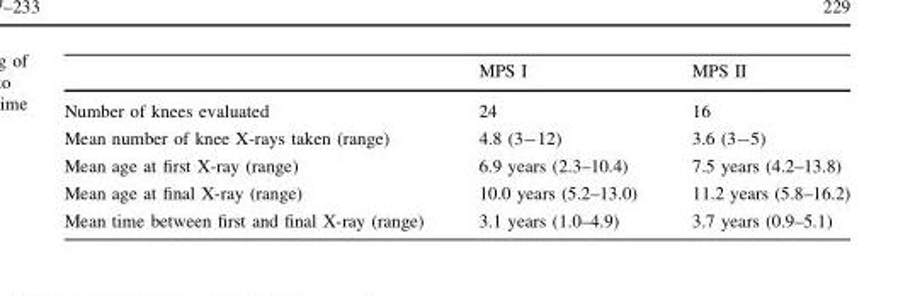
<table><thead><tr><td></td><td>MPS I</td><td>MPS II</td></tr></thead><tbody><tr><td>Number of knees evaluated</td><td>24</td><td>16</td></tr><tr><td>Mean number of knee X-rays taken (range)</td><td>4.8 (3-12)</td><td>3.6 (3-5)</td></tr><tr><td>Mean age at first X-ray (range)</td><td>6.9 years (2.3–10.4)</td><td>7.5 years (4.2–13.8)</td></tr><tr><td>Mean age at final X-ray (range)</td><td>10.0 years (5.2–13.0)</td><td>11.2 years (5.8–16.2)</td></tr><tr><td>Mean time between first and final X-ray (range)</td><td>3.1 years (1.0–4.9)</td><td>3.7 years (0.9–5.1)</td></tr></tbody></table>